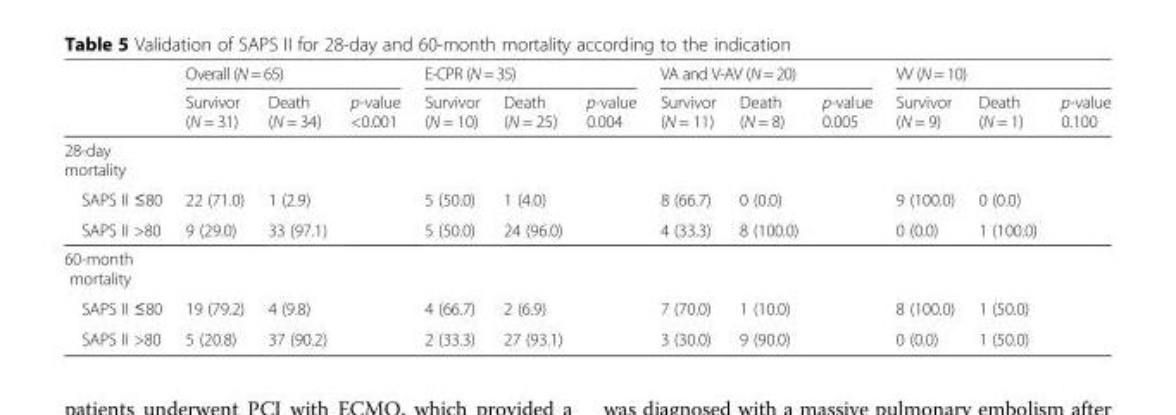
<table><thead><tr><td rowspan="2"></td><td colspan="3">Overall (N = 65)</td><td colspan="3">E-CPR (N = 35)</td><td colspan="3">VA and V-AV (N = 20)</td><td colspan="3">VV (N = 10)</td></tr><tr><td>Survivor (N = 31)</td><td>Death (N = 34)</td><td>p-value &lt;0.001</td><td>Survivor (N = 10)</td><td>Death (N = 25)</td><td>p-value 0.004</td><td>Survivor (N = 11)</td><td>Death (N = 8)</td><td>p-value 0.005</td><td>Survivor (N = 9)</td><td>Death (N = 1)</td><td>p-value 0.100</td></tr></thead><tbody><tr><td colspan="13">28-day mortality</td></tr><tr><td>SAPS II ≤80</td><td>22 (71.0)</td><td>1 (2.9)</td><td></td><td>5 (50.0)</td><td>1 (4.0)</td><td></td><td>8 (66.7)</td><td>0 (0.0)</td><td></td><td>9 (100.0)</td><td>0 (0.0)</td><td></td></tr><tr><td>SAPS II &gt;80</td><td>9 (29.0)</td><td>33 (97.1)</td><td></td><td>5 (50.0)</td><td>24 (96.0)</td><td></td><td>4 (33.3)</td><td>8 (100.0)</td><td></td><td>0 (0.0)</td><td>1 (100.0)</td><td></td></tr><tr><td colspan="13">60-month mortality</td></tr><tr><td>SAPS II ≤80</td><td>19 (79.2)</td><td>4 (9.8)</td><td></td><td>4 (66.7)</td><td>2 (6.9)</td><td></td><td>7 (70.0)</td><td>1 (10.0)</td><td></td><td>8 (100.0)</td><td>1 (50.0)</td><td></td></tr><tr><td>SAPS II &gt;80</td><td>5 (20.8)</td><td>37 (90.2)</td><td></td><td>2 (33.3)</td><td>27 (93.1)</td><td></td><td>3 (30.0)</td><td>9 (90.0)</td><td></td><td>0 (0.0)</td><td>1 (50.0)</td><td></td></tr></tbody></table>